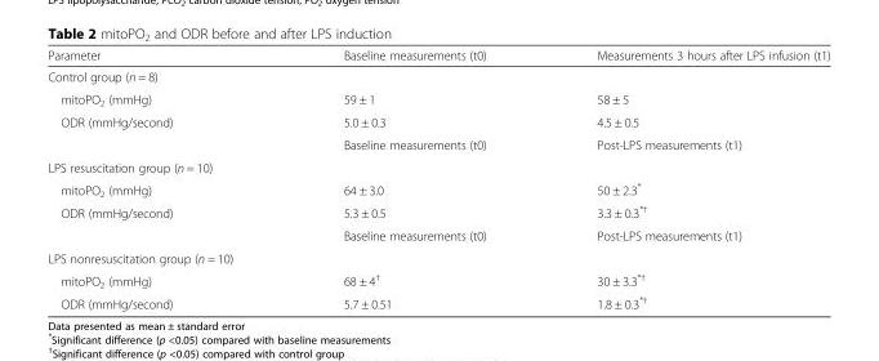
<table><thead><tr><td>Parameter</td><td>Baseline measurements (t0)</td><td>Measurements 3 hours after LPS infusion (t1)</td></tr></thead><tbody><tr><td colspan="3">Control group (n = 8)</td></tr><tr><td>mitoPO<sub>2</sub> (mmHg)</td><td>59 ± 1</td><td>58 ± 5</td></tr><tr><td rowspan="2">ODR (mmHg/second)</td><td>5.0 ± 0.3</td><td>4.5 ± 0.5</td></tr><tr><td>Baseline measurements (t0)</td><td>Post-LPS measurements (t1)</td></tr><tr><td colspan="3">LPS resuscitation group (n = 10)</td></tr><tr><td>mitoPO<sub>2</sub> (mmHg)</td><td>64 ± 3.0</td><td>50 ± 2.3*</td></tr><tr><td rowspan="2">ODR (mmHg/second)</td><td>5.3 ± 0.5</td><td>3.3 ± 0.3<sup>*†</sup></td></tr><tr><td>Baseline measurements (t0)</td><td>Post-LPS measurements (t1)</td></tr><tr><td colspan="3">LPS nonresuscitation group (n = 10)</td></tr><tr><td>mitoPO<sub>2</sub> (mmHg)</td><td>68 ± 4<sup>†</sup></td><td>30 ± 3.3<sup>*†</sup></td></tr><tr><td>ODR (mmHg/second)</td><td>5.7 ± 0.51</td><td>1.8 ± 0.3<sup>*†</sup></td></tr></tbody></table>